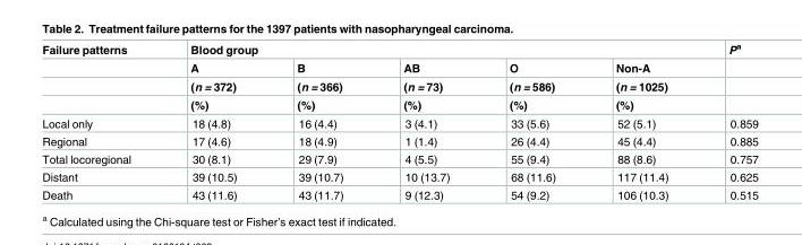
<table><thead><tr><td rowspan="4">Failure patterns</td><td colspan="5">Blood group</td><td rowspan="4">P<sup>a</sup></td></tr><tr><td rowspan="3">A (n = 372) (%)</td><td rowspan="3">B (n = 366) (%)</td><td rowspan="3">AB (n = 73) (%)</td><td rowspan="3">O (n = 586) (%)</td><td rowspan="3">Non-A (n = 1025) (%)</td></tr><tr></tr><tr></tr></thead><tbody><tr><td>Local only</td><td>18 (4.8)</td><td>16 (4.4)</td><td>3 (4.1)</td><td>33 (5.6)</td><td>52 (5.1)</td><td>0.859</td></tr><tr><td>Regional</td><td>17 (4.6)</td><td>18 (4.9)</td><td>1 (1.4)</td><td>26 (4.4)</td><td>45 (4.4)</td><td>0.885</td></tr><tr><td>Total locoregional</td><td>30 (8.1)</td><td>29 (7.9)</td><td>4 (5.5)</td><td>55 (9.4)</td><td>88 (8.6)</td><td>0.757</td></tr><tr><td>Distant</td><td>39 (10.5)</td><td>39 (10.7)</td><td>10 (13.7)</td><td>68 (11.6)</td><td>117 (11.4)</td><td>0.625</td></tr><tr><td>Death</td><td>43 (11.6)</td><td>43 (11.7)</td><td>9 (12.3)</td><td>54 (9.2)</td><td>106 (10.3)</td><td>0.515</td></tr></tbody></table>